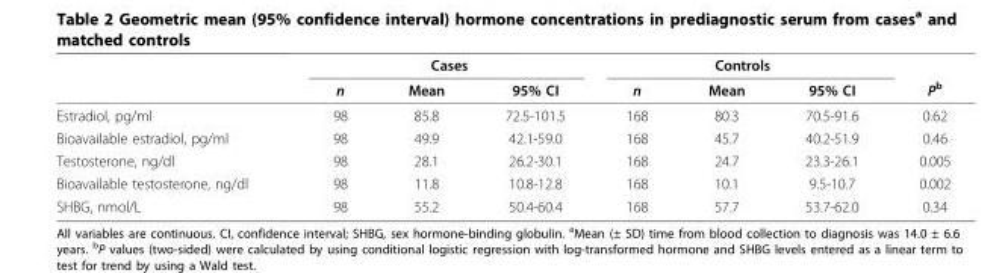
<table><thead><tr><td rowspan="2"></td><td colspan="3">Cases</td><td colspan="3">Controls</td><td rowspan="2">P<sup>b</sup></td></tr><tr><td>n</td><td>Mean</td><td>95% CI</td><td>n</td><td>Mean</td><td>95% CI</td></tr></thead><tbody><tr><td>Estradiol, pg/ml</td><td>98</td><td>85.8</td><td>72.5-101.5</td><td>168</td><td>80.3</td><td>70.5-91.6</td><td>0.62</td></tr><tr><td>Bioavailable estradiol, pg/ml</td><td>98</td><td>49.9</td><td>42.1-59.0</td><td>168</td><td>45.7</td><td>40.2-51.9</td><td>0.46</td></tr><tr><td>Testosterone, ng/dl</td><td>98</td><td>28.1</td><td>26.2-30.1</td><td>168</td><td>24.7</td><td>23.3-26.1</td><td>0.005</td></tr><tr><td>Bioavailable testosterone, ng/dl</td><td>98</td><td>11.8</td><td>10.8-12.8</td><td>168</td><td>10.1</td><td>9.5-10.7</td><td>0.002</td></tr><tr><td>SHBG, nmol/L</td><td>98</td><td>55.2</td><td>50.4-60.4</td><td>168</td><td>57.7</td><td>53.7-62.0</td><td>0.34</td></tr></tbody></table>